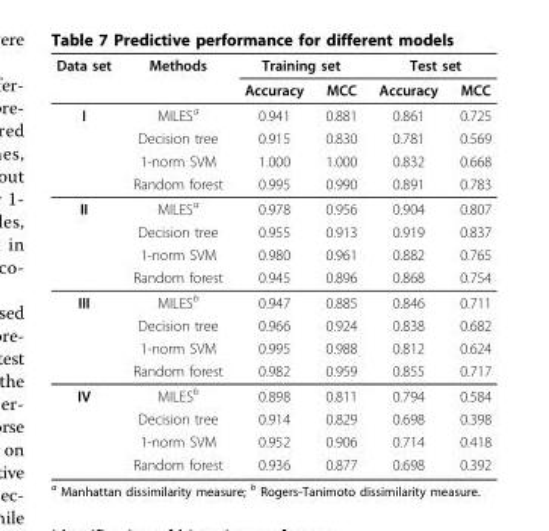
<table><thead><tr><td rowspan="2">Data set</td><td rowspan="2">Methods</td><td colspan="2">Training set</td><td colspan="2">Test set</td></tr><tr><td>Accuracy</td><td>MCC</td><td>Accuracy</td><td>MCC</td></tr></thead><tbody><tr><td rowspan="4">I</td><td>MILES<sup>a</sup></td><td>0.941</td><td>0.881</td><td>0.861</td><td>0.725</td></tr><tr><td>Decision tree</td><td>0.915</td><td>0.830</td><td>0.781</td><td>0.569</td></tr><tr><td>1-norm SVM</td><td>1.000</td><td>1.000</td><td>0.832</td><td>0.668</td></tr><tr><td>Random forest</td><td>0.995</td><td>0.990</td><td>0.891</td><td>0.783</td></tr><tr><td rowspan="4">II</td><td>MILES<sup>a</sup></td><td>0.978</td><td>0.956</td><td>0.904</td><td>0.807</td></tr><tr><td>Decision tree</td><td>0.955</td><td>0.913</td><td>0.919</td><td>0.837</td></tr><tr><td>1-norm SVM</td><td>0.980</td><td>0.961</td><td>0.882</td><td>0.765</td></tr><tr><td>Random forest</td><td>0.945</td><td>0.896</td><td>0.868</td><td>0.754</td></tr><tr><td rowspan="4">III</td><td>MILES<sup>b</sup></td><td>0.947</td><td>0.885</td><td>0.846</td><td>0.711</td></tr><tr><td>Decision tree</td><td>0.966</td><td>0.924</td><td>0.838</td><td>0.682</td></tr><tr><td>1-norm SVM</td><td>0.995</td><td>0.988</td><td>0.812</td><td>0.624</td></tr><tr><td>Random forest</td><td>0.982</td><td>0.959</td><td>0.855</td><td>0.717</td></tr><tr><td rowspan="4">IV</td><td>MILES<sup>b</sup></td><td>0.898</td><td>0.811</td><td>0.794</td><td>0.584</td></tr><tr><td>Decision tree</td><td>0.914</td><td>0.829</td><td>0.698</td><td>0.398</td></tr><tr><td>1-norm SVM</td><td>0.952</td><td>0.906</td><td>0.714</td><td>0.418</td></tr><tr><td>Random forest</td><td>0.936</td><td>0.877</td><td>0.698</td><td>0.392</td></tr></tbody></table>